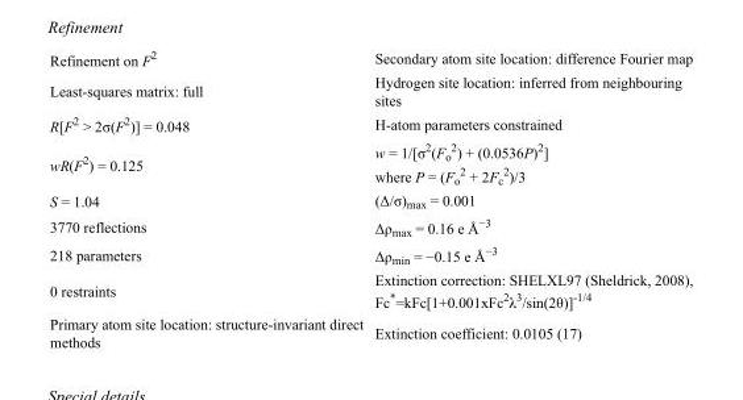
<table><tbody><tr><td>Refinement on F<sup>2</sup></td><td>Secondary atom site location: difference Fourier map</td></tr><tr><td>Least-squares matrix: full</td><td>Hydrogen site location: inferred from neighbouring sites</td></tr><tr><td>R[F<sup>2</sup> &gt; 2σ(F<sup>2</sup>)] = 0.048</td><td>H-atom parameters constrained</td></tr><tr><td>wR(F<sup>2</sup>) = 0.125</td><td>w = 1/[σ<sup>2</sup>(F<sub>o</sub> <sup>2</sup>) + (0.0536P)<sup>2</sup>] where P = (F<sub>o</sub> <sup>2</sup> + 2F<sub>c</sub> <sup>2</sup>)/3</td></tr><tr><td>S = 1.04</td><td>(Δ/σ)<sub>max</sub> = 0.001</td></tr><tr><td>3770 reflections</td><td>Δρ<sub>max</sub> = 0.16 e Å<sup>−3</sup></td></tr><tr><td>218 parameters</td><td>Δρ<sub>min</sub> = −0.15 e Å<sup>−3</sup></td></tr><tr><td>0 restraints</td><td>Extinction correction: SHELXL97 (Sheldrick, 2008), Fc*=kFc[1+0.001xFc<sup>2</sup>λ<sup>3</sup>/sin(2θ)]<sup>-1/4</sup></td></tr><tr><td>Primary atom site location: structure-invariant direct methods</td><td>Extinction coefficient: 0.0105 (17)</td></tr></tbody></table>